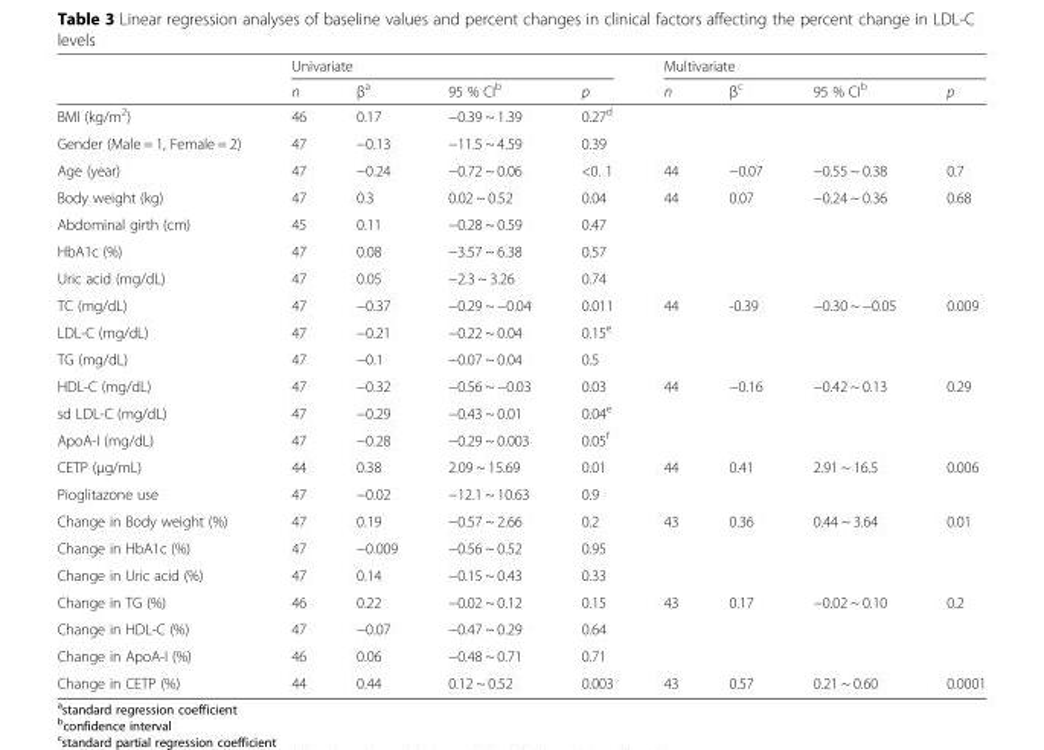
<table><thead><tr><td rowspan="2"></td><td colspan="4">Univariate</td><td colspan="4">Multivariate</td></tr><tr><td>n</td><td>β<sup>a</sup></td><td>95 % CI<sup>b</sup></td><td>p</td><td>n</td><td>β<sup>c</sup></td><td>95 % CI<sup>b</sup></td><td>p</td></tr></thead><tbody><tr><td>BMI (kg/m<sup>2</sup>)</td><td>46</td><td>0.17</td><td>−0.39 ~ 1.39</td><td>0.27<sup>d</sup></td><td></td><td></td><td></td><td></td></tr><tr><td>Gender (Male = 1, Female = 2)</td><td>47</td><td>−0.13</td><td>−11.5 ~ 4.59</td><td>0.39</td><td></td><td></td><td></td><td></td></tr><tr><td>Age (year)</td><td>47</td><td>−0.24</td><td>−0.72 ~ 0.06</td><td>&lt;0. 1</td><td>44</td><td>−0.07</td><td>−0.55 ~ 0.38</td><td>0.7</td></tr><tr><td>Body weight (kg)</td><td>47</td><td>0.3</td><td>0.02 ~ 0.52</td><td>0.04</td><td>44</td><td>0.07</td><td>−0.24 ~ 0.36</td><td>0.68</td></tr><tr><td>Abdominal girth (cm)</td><td>45</td><td>0.11</td><td>−0.28 ~ 0.59</td><td>0.47</td><td></td><td></td><td></td><td></td></tr><tr><td>HbA1c (%)</td><td>47</td><td>0.08</td><td>−3.57 ~ 6.38</td><td>0.57</td><td></td><td></td><td></td><td></td></tr><tr><td>Uric acid (mg/dL)</td><td>47</td><td>0.05</td><td>−2.3 ~ 3.26</td><td>0.74</td><td></td><td></td><td></td><td></td></tr><tr><td>TC (mg/dL)</td><td>47</td><td>−0.37</td><td>−0.29 ~ −0.04</td><td>0.011</td><td>44</td><td>-0.39</td><td>−0.30 ~ −0.05</td><td>0.009</td></tr><tr><td>LDL-C (mg/dL)</td><td>47</td><td>−0.21</td><td>−0.22 ~ 0.04</td><td>0.15<sup>e</sup></td><td></td><td></td><td></td><td></td></tr><tr><td>TG (mg/dL)</td><td>47</td><td>−0.1</td><td>−0.07 ~ 0.04</td><td>0.5</td><td></td><td></td><td></td><td></td></tr><tr><td>HDL-C (mg/dL)</td><td>47</td><td>−0.32</td><td>−0.56 ~ −0.03</td><td>0.03</td><td>44</td><td>−0.16</td><td>−0.42 ~ 0.13</td><td>0.29</td></tr><tr><td>sd LDL-C (mg/dL)</td><td>47</td><td>−0.29</td><td>−0.43 ~ 0.01</td><td>0.04<sup>e</sup></td><td></td><td></td><td></td><td></td></tr><tr><td>ApoA-I (mg/dL)</td><td>47</td><td>−0.28</td><td>−0.29 ~ 0.003</td><td>0.05<sup>f</sup></td><td></td><td></td><td></td><td></td></tr><tr><td>CETP (μg/mL)</td><td>44</td><td>0.38</td><td>2.09 ~ 15.69</td><td>0.01</td><td>44</td><td>0.41</td><td>2.91 ~ 16.5</td><td>0.006</td></tr><tr><td>Pioglitazone use</td><td>47</td><td>−0.02</td><td>−12.1 ~ 10.63</td><td>0.9</td><td></td><td></td><td></td><td></td></tr><tr><td>Change in Body weight (%)</td><td>47</td><td>0.19</td><td>−0.57 ~ 2.66</td><td>0.2</td><td>43</td><td>0.36</td><td>0.44 ~ 3.64</td><td>0.01</td></tr><tr><td>Change in HbA1c (%)</td><td>47</td><td>−0.009</td><td>−0.56 ~ 0.52</td><td>0.95</td><td></td><td></td><td></td><td></td></tr><tr><td>Change in Uric acid (%)</td><td>47</td><td>0.14</td><td>−0.15 ~ 0.43</td><td>0.33</td><td></td><td></td><td></td><td></td></tr><tr><td>Change in TG (%)</td><td>46</td><td>0.22</td><td>−0.02 ~ 0.12</td><td>0.15</td><td>43</td><td>0.17</td><td>−0.02 ~ 0.10</td><td>0.2</td></tr><tr><td>Change in HDL-C (%)</td><td>47</td><td>−0.07</td><td>−0.47 ~ 0.29</td><td>0.64</td><td></td><td></td><td></td><td></td></tr><tr><td>Change in ApoA-I (%)</td><td>46</td><td>0.06</td><td>−0.48 ~ 0.71</td><td>0.71</td><td></td><td></td><td></td><td></td></tr><tr><td>Change in CETP (%)</td><td>44</td><td>0.44</td><td>0.12 ~ 0.52</td><td>0.003</td><td>43</td><td>0.57</td><td>0.21 ~ 0.60</td><td>0.0001</td></tr></tbody></table>